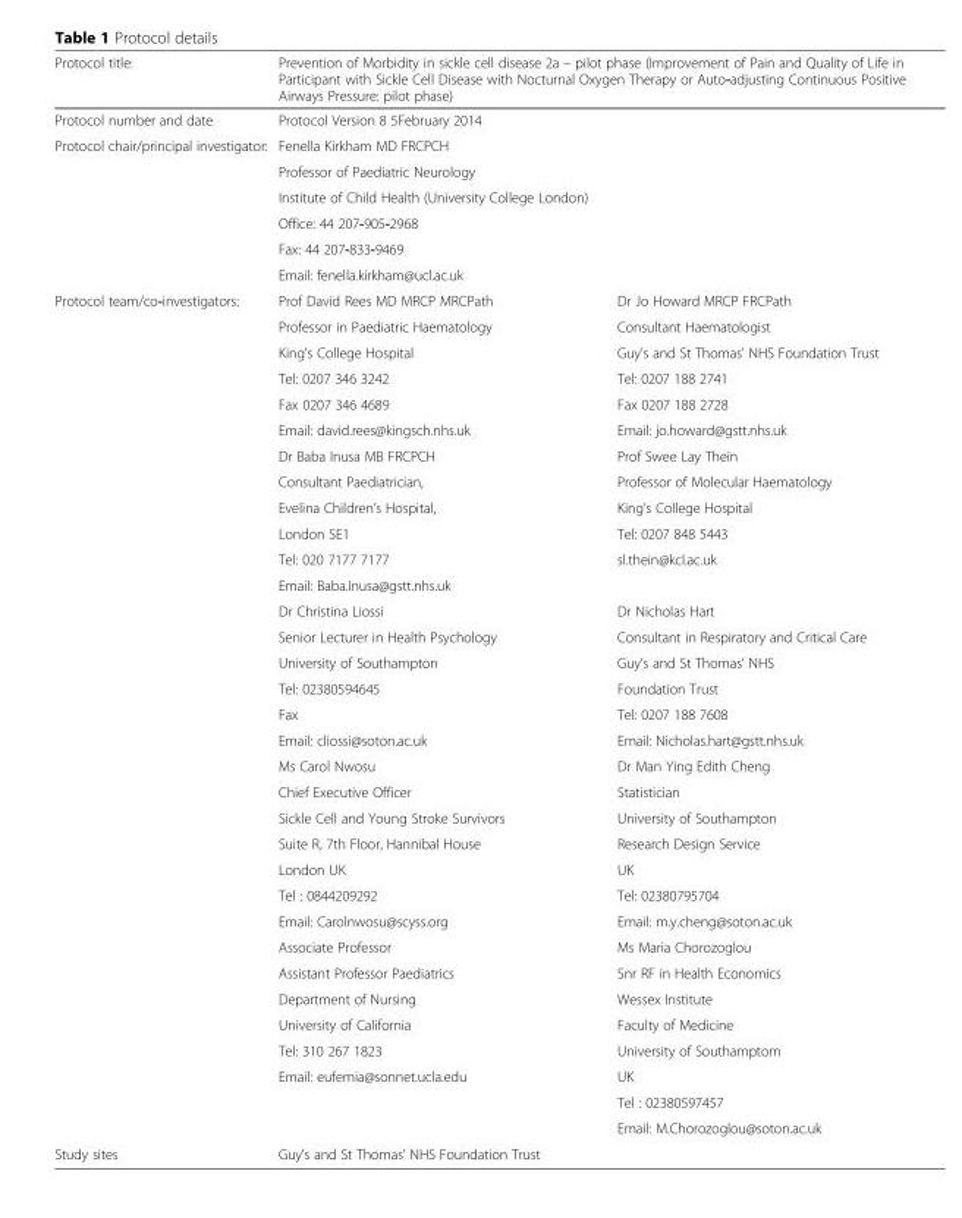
<table><thead><tr><td>Protocol title:</td><td colspan="2">Prevention of Morbidity in sickle cell disease 2a – pilot phase (Improvement of Pain and Quality of Life in Participant with Sickle Cell Disease with Nocturnal Oxygen Therapy or Auto-adjusting Continuous Positive Airways Pressure: pilot phase)</td></tr></thead><tbody><tr><td>Protocol number and date</td><td colspan="2">Protocol Version 8 5February 2014</td></tr><tr><td rowspan="6">Protocol chair/principal investigator:</td><td colspan="2">Fenella Kirkham MD FRCPCH</td></tr><tr><td colspan="2">Professor of Paediatric Neurology</td></tr><tr><td colspan="2">Institute of Child Health (University College London)</td></tr><tr><td colspan="2">Office: 44 207-905-2968</td></tr><tr><td colspan="2">Fax: 44 207-833-9469</td></tr><tr><td colspan="2">Email: fenella.kirkham@ucl.ac.uk</td></tr><tr><td rowspan="33">Protocol team/co-investigators:</td><td>Prof David Rees MD MRCP MRCPath</td><td>Dr Jo Howard MRCP FRCPath</td></tr><tr><td>Professor in Paediatric Haematology</td><td>Consultant Haematologist</td></tr><tr><td>King&#x27;s College Hospital</td><td>Guy’s and St Thomas’ NHS Foundation Trust</td></tr><tr><td>Tel: 0207 346 3242</td><td>Tel: 0207 188 2741</td></tr><tr><td>Fax 0207 346 4689</td><td>Fax 0207 188 2728</td></tr><tr><td>Email: david.rees@kingsch.nhs.uk</td><td>Email: jo.howard@gstt.nhs.uk</td></tr><tr><td>Dr Baba Inusa MB FRCPCH</td><td>Prof Swee Lay Thein</td></tr><tr><td>Consultant Paediatrician,</td><td>Professor of Molecular Haematology</td></tr><tr><td>Evelina Children’s Hospital,</td><td>King’s College Hospital</td></tr><tr><td>London SE1</td><td>Tel: 0207 848 5443</td></tr><tr><td>Tel: 020 7177 7177</td><td>sl.thein@kcl.ac.uk</td></tr><tr><td>Email: Baba.Inusa@gstt.nhs.uk</td><td></td></tr><tr><td>Dr Christina Liossi</td><td>Dr Nicholas Hart</td></tr><tr><td>Senior Lecturer in Health Psychology</td><td>Consultant in Respiratory and Critical Care</td></tr><tr><td>University of Southampton</td><td>Guy’s and St Thomas’ NHS</td></tr><tr><td>Tel: 02380594645</td><td>Foundation Trust</td></tr><tr><td>Fax</td><td>Tel: 0207 188 7608</td></tr><tr><td>Email: cliossi@soton.ac.uk</td><td>Email: Nicholas.hart@gstt.nhs.uk</td></tr><tr><td>Ms Carol Nwosu</td><td>Dr Man Ying Edith Cheng</td></tr><tr><td>Chief Executive Officer</td><td>Statistician</td></tr><tr><td>Sickle Cell and Young Stroke Survivors</td><td>University of Southampton</td></tr><tr><td>Suite R, 7th Floor, Hannibal House</td><td>Research Design Service</td></tr><tr><td>London UK</td><td>UK</td></tr><tr><td>Tel : 0844209292</td><td>Tel: 02380795704</td></tr><tr><td>Email: Carolnwosu@scyss.org</td><td>Email: m.y.cheng@soton.ac.uk</td></tr><tr><td>Associate Professor</td><td>Ms Maria Chorozoglou</td></tr><tr><td>Assistant Professor Paediatrics</td><td>Snr RF in Health Economics</td></tr><tr><td>Department of Nursing</td><td>Wessex Institute</td></tr><tr><td>University of California</td><td>Faculty of Medicine</td></tr><tr><td>Tel: 310 267 1823</td><td>University of Southamptom</td></tr><tr><td rowspan="3">Email: eufemia@sonnet.ucla.edu</td><td>UK</td></tr><tr><td>Tel : 02380597457</td></tr><tr><td>Email: M.Chorozoglou@soton.ac.uk</td></tr><tr><td>Study sites</td><td>Guy’s and St Thomas’ NHS Foundation Trust</td><td></td></tr></tbody></table>